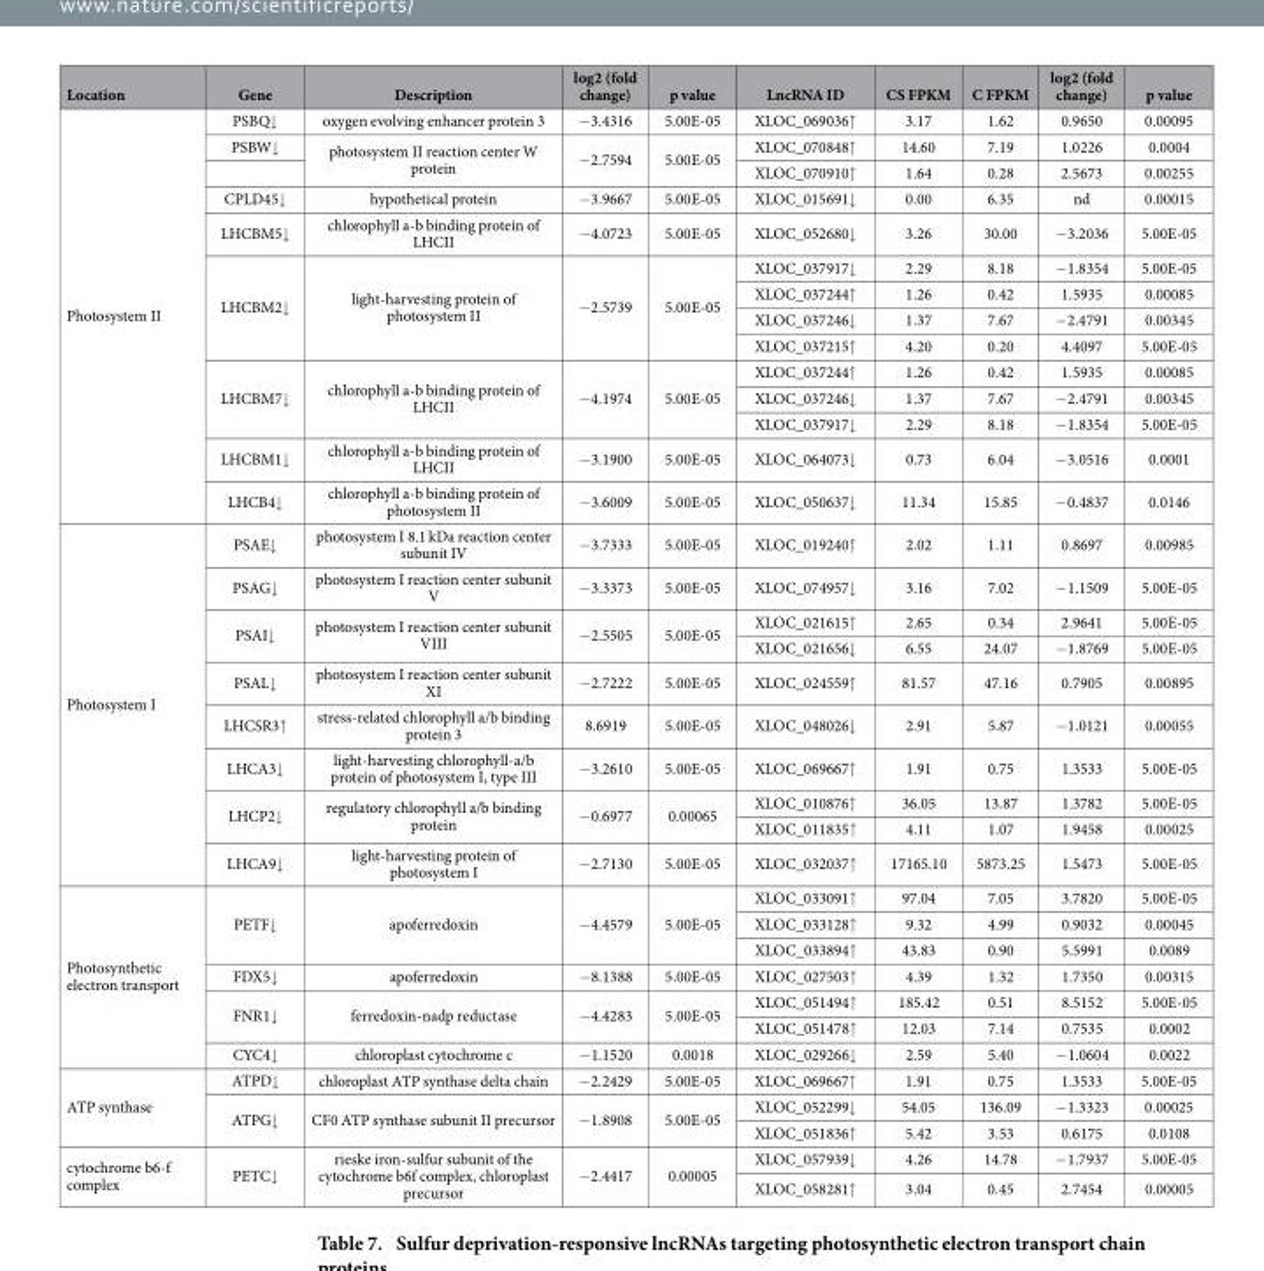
<table><thead><tr><td>Location</td><td>Gene</td><td>Description</td><td>log2 (fold change)</td><td>p value</td><td>LncRNA ID</td><td>CS FPKM</td><td>C FPKM</td><td>log2 (fold change)</td><td>p value</td></tr></thead><tbody><tr><td rowspan="14">Photosystem II</td><td>PSBQ↓</td><td>oxygen evolving enhancer protein 3</td><td>− 3.4316</td><td>5.00E-05</td><td>XLOC_069036↑</td><td>3.17</td><td>1.62</td><td>0.9650</td><td>0.00095</td></tr><tr><td>PSBW↓</td><td rowspan="2">photosystem II reaction center W protein</td><td rowspan="2">− 2.7594</td><td rowspan="2">5.00E-05</td><td>XLOC_070848↑</td><td>14.60</td><td>7.19</td><td>1.0226</td><td>0.0004</td></tr><tr><td></td><td>XLOC_070910↑</td><td>1.64</td><td>0.28</td><td>2.5673</td><td>0.00255</td></tr><tr><td>CPLD45↓</td><td>hypothetical protein</td><td>− 3.9667</td><td>5.00E-05</td><td>XLOC_015691↓</td><td>0.00</td><td>6.35</td><td>nd</td><td>0.00015</td></tr><tr><td>LHCBM5↓</td><td>chlorophyll a-b binding protein of LHCII</td><td>− 4.0723</td><td>5.00E-05</td><td>XLOC_052680↓</td><td>3.26</td><td>30.00</td><td>− 3.2036</td><td>5.00E-05</td></tr><tr><td rowspan="4">LHCBM2↓</td><td rowspan="4">light-harvesting protein of photosystem II</td><td rowspan="4">− 2.5739</td><td rowspan="4">5.00E-05</td><td>XLOC_037917↓</td><td>2.29</td><td>8.18</td><td>− 1.8354</td><td>5.00E-05</td></tr><tr><td>XLOC_037244↑</td><td>1.26</td><td>0.42</td><td>1.5935</td><td>0.00085</td></tr><tr><td>XLOC_037246↓</td><td>1.37</td><td>7.67</td><td>− 2.4791</td><td>0.00345</td></tr><tr><td>XLOC_037215↑</td><td>4.20</td><td>0.20</td><td>4.4097</td><td>5.00E-05</td></tr><tr><td rowspan="3">LHCBM7↓</td><td rowspan="3">chlorophyll a-b binding protein of LHCII</td><td rowspan="3">− 4.1974</td><td rowspan="3">5.00E-05</td><td>XLOC_037244↑</td><td>1.26</td><td>0.42</td><td>1.5935</td><td>0.00085</td></tr><tr><td>XLOC_037246↓</td><td>1.37</td><td>7.67</td><td>− 2.4791</td><td>0.00345</td></tr><tr><td>XLOC_037917↓</td><td>2.29</td><td>8.18</td><td>− 1.8354</td><td>5.00E-05</td></tr><tr><td>LHCBM1↓</td><td>chlorophyll a-b binding protein of LHCII</td><td>− 3.1900</td><td>5.00E-05</td><td>XLOC_064073↓</td><td>0.73</td><td>6.04</td><td>− 3.0516</td><td>0.0001</td></tr><tr><td>LHCB4↓</td><td>chlorophyll a-b binding protein of photosystem II</td><td>− 3.6009</td><td>5.00E-05</td><td>XLOC_050637↓</td><td>11.34</td><td>15.85</td><td>− 0.4837</td><td>0.0146</td></tr><tr><td rowspan="10">Photosystem I</td><td>PSAE↓</td><td>photosystem I 8.1 kDa reaction center subunit IV</td><td>− 3.7333</td><td>5.00E-05</td><td>XLOC_019240↑</td><td>2.02</td><td>1.11</td><td>0.8697</td><td>0.00985</td></tr><tr><td>PSAG↓</td><td>photosystem I reaction center subunit V</td><td>− 3.3373</td><td>5.00E-05</td><td>XLOC_074957↓</td><td>3.16</td><td>7.02</td><td>− 1.1509</td><td>5.00E-05</td></tr><tr><td rowspan="2">PSAI↓</td><td rowspan="2">photosystem I reaction center subunit VIII</td><td rowspan="2">− 2.5505</td><td rowspan="2">5.00E-05</td><td>XLOC_021615↑</td><td>2.65</td><td>0.34</td><td>2.9641</td><td>5.00E-05</td></tr><tr><td>XLOC_021656↓</td><td>6.55</td><td>24.07</td><td>− 1.8769</td><td>5.00E-05</td></tr><tr><td>PSAL↓</td><td>photosystem I reaction center subunit XI</td><td>− 2.7222</td><td>5.00E-05</td><td>XLOC_024559↑</td><td>81.57</td><td>47.16</td><td>0.7905</td><td>0.00895</td></tr><tr><td>LHCSR3↑</td><td>stress-related chlorophyll a/b binding protein 3</td><td>8.6919</td><td>5.00E-05</td><td>XLOC_048026↓</td><td>2.91</td><td>5.87</td><td>− 1.0121</td><td>0.00055</td></tr><tr><td>LHCA3↓</td><td>light-harvesting chlorophyll-a/b protein of photosystem I, type III</td><td>− 3.2610</td><td>5.00E-05</td><td>XLOC_069667↑</td><td>1.91</td><td>0.75</td><td>1.3533</td><td>5.00E-05</td></tr><tr><td rowspan="2">LHCP2↓</td><td rowspan="2">regulatory chlorophyll a/b binding protein</td><td rowspan="2">− 0.6977</td><td rowspan="2">0.00065</td><td>XLOC_010876↑</td><td>36.05</td><td>13.87</td><td>1.3782</td><td>5.00E-05</td></tr><tr><td>XLOC_011835↑</td><td>4.11</td><td>1.07</td><td>1.9458</td><td>0.00025</td></tr><tr><td>LHCA9↓</td><td>light-harvesting protein of photosystem I</td><td>− 2.7130</td><td>5.00E-05</td><td>XLOC_032037↑</td><td>17165.10</td><td>5873.25</td><td>1.5473</td><td>5.00E-05</td></tr><tr><td rowspan="7">Photosynthetic electron transport</td><td rowspan="3">PETF↓</td><td rowspan="3">apoferredoxin</td><td rowspan="3">− 4.4579</td><td rowspan="3">5.00E-05</td><td>XLOC_033091↑</td><td>97.04</td><td>7.05</td><td>3.7820</td><td>5.00E-05</td></tr><tr><td>XLOC_033128↑</td><td>9.32</td><td>4.99</td><td>0.9032</td><td>0.00045</td></tr><tr><td>XLOC_033894↑</td><td>43.83</td><td>0.90</td><td>5.5991</td><td>0.0089</td></tr><tr><td>FDX5↓</td><td>apoferredoxin</td><td>− 8.1388</td><td>5.00E-05</td><td>XLOC_027503↑</td><td>4.39</td><td>1.32</td><td>1.7350</td><td>0.00315</td></tr><tr><td rowspan="2">FNR1↓</td><td rowspan="2">ferredoxin-nadp reductase</td><td rowspan="2">− 4.4283</td><td rowspan="2">5.00E-05</td><td>XLOC_051494↑</td><td>185.42</td><td>0.51</td><td>8.5152</td><td>5.00E-05</td></tr><tr><td>XLOC_051478↑</td><td>12.03</td><td>7.14</td><td>0.7535</td><td>0.0002</td></tr><tr><td>CYC4↓</td><td>chloroplast cytochrome c</td><td>− 1.1520</td><td>0.0018</td><td>XLOC_029266↓</td><td>2.59</td><td>5.40</td><td>− 1.0604</td><td>0.0022</td></tr><tr><td rowspan="3">ATP synthase</td><td>ATPD↓</td><td>chloroplast ATP synthase delta chain</td><td>− 2.2429</td><td>5.00E-05</td><td>XLOC_069667↑</td><td>1.91</td><td>0.75</td><td>1.3533</td><td>5.00E-05</td></tr><tr><td rowspan="2">ATPG↓</td><td rowspan="2">CF0 ATP synthase subunit II precursor</td><td rowspan="2">− 1.8908</td><td rowspan="2">5.00E-05</td><td>XLOC_052299↓</td><td>54.05</td><td>136.09</td><td>− 1.3323</td><td>0.00025</td></tr><tr><td>XLOC_051836↑</td><td>5.42</td><td>3.53</td><td>0.6175</td><td>0.0108</td></tr><tr><td rowspan="2">cytochrome b6-f complex</td><td rowspan="2">PETC↓</td><td rowspan="2">rieske iron-sulfur subunit of the cytochrome b6f complex, chloroplast precursor</td><td rowspan="2">− 2.4417</td><td rowspan="2">0.00005</td><td>XLOC_057939↓</td><td>4.26</td><td>14.78</td><td>− 1.7937</td><td>5.00E-05</td></tr><tr><td>XLOC_058281↑</td><td>3.04</td><td>0.45</td><td>2.7454</td><td>0.00005</td></tr></tbody></table>